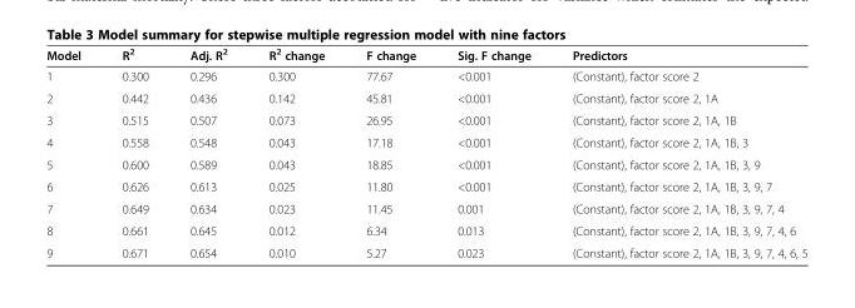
<table><thead><tr><td>Model</td><td>R<sup>2</sup></td><td>Adj. R<sup>2</sup></td><td>R<sup>2</sup> change</td><td>F change</td><td>Sig. F change</td><td>Predictors</td></tr></thead><tbody><tr><td>1</td><td>0.300</td><td>0.296</td><td>0.300</td><td>77.67</td><td>&lt;0.001</td><td>(Constant), factor score 2</td></tr><tr><td>2</td><td>0.442</td><td>0.436</td><td>0.142</td><td>45.81</td><td>&lt;0.001</td><td>(Constant), factor score 2, 1A</td></tr><tr><td>3</td><td>0.515</td><td>0.507</td><td>0.073</td><td>26.95</td><td>&lt;0.001</td><td>(Constant), factor score 2, 1A, 1B</td></tr><tr><td>4</td><td>0.558</td><td>0.548</td><td>0.043</td><td>17.18</td><td>&lt;0.001</td><td>(Constant), factor score 2, 1A, 1B, 3</td></tr><tr><td>5</td><td>0.600</td><td>0.589</td><td>0.043</td><td>18.85</td><td>&lt;0.001</td><td>(Constant), factor score 2, 1A, 1B, 3, 9</td></tr><tr><td>6</td><td>0.626</td><td>0.613</td><td>0.025</td><td>11.80</td><td>&lt;0.001</td><td>(Constant), factor score 2, 1A, 1B, 3, 9, 7</td></tr><tr><td>7</td><td>0.649</td><td>0.634</td><td>0.023</td><td>11.45</td><td>0.001</td><td>(Constant), factor score 2, 1A, 1B, 3, 9, 7, 4</td></tr><tr><td>8</td><td>0.661</td><td>0.645</td><td>0.012</td><td>6.34</td><td>0.013</td><td>(Constant), factor score 2, 1A, 1B, 3, 9, 7, 4, 6</td></tr><tr><td>9</td><td>0.671</td><td>0.654</td><td>0.010</td><td>5.27</td><td>0.023</td><td>(Constant), factor score 2, 1A, 1B, 3, 9, 7, 4, 6, 5</td></tr></tbody></table>